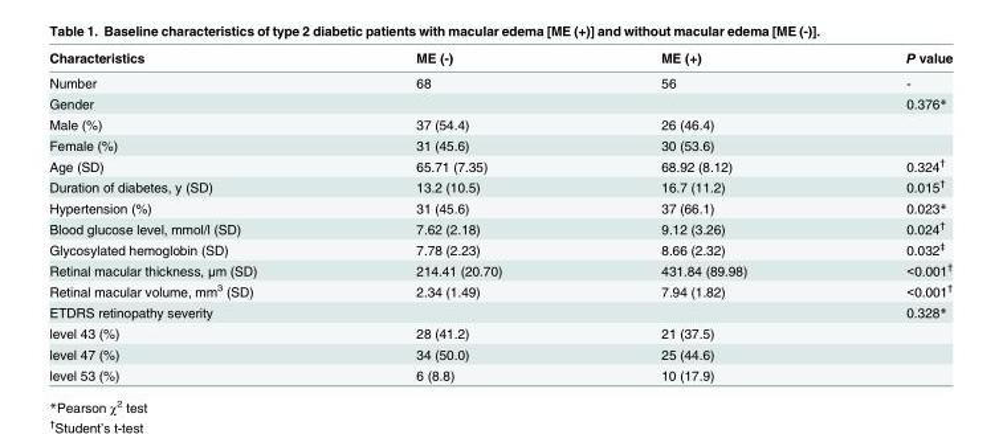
<table><thead><tr><td>Characteristics</td><td>ME (-)</td><td>ME (+)</td><td>P value</td></tr></thead><tbody><tr><td>Number</td><td>68</td><td>56</td><td>-</td></tr><tr><td>Gender</td><td></td><td></td><td>0.376*</td></tr><tr><td>Male (%)</td><td>37 (54.4)</td><td>26 (46.4)</td><td></td></tr><tr><td>Female (%)</td><td>31 (45.6)</td><td>30 (53.6)</td><td></td></tr><tr><td>Age (SD)</td><td>65.71 (7.35)</td><td>68.92 (8.12)</td><td>0.324<sup>†</sup></td></tr><tr><td>Duration of diabetes, y (SD)</td><td>13.2 (10.5)</td><td>16.7 (11.2)</td><td>0.015<sup>†</sup></td></tr><tr><td>Hypertension (%)</td><td>31 (45.6)</td><td>37 (66.1)</td><td>0.023*</td></tr><tr><td>Blood glucose level, mmol/l (SD)</td><td>7.62 (2.18)</td><td>9.12 (3.26)</td><td>0.024<sup>†</sup></td></tr><tr><td>Glycosylated hemoglobin (SD)</td><td>7.78 (2.23)</td><td>8.66 (2.32)</td><td>0.032<sup>‡</sup></td></tr><tr><td>Retinal macular thickness, μm (SD)</td><td>214.41 (20.70)</td><td>431.84 (89.98)</td><td>&lt;0.001<sup>†</sup></td></tr><tr><td>Retinal macular volume, mm<sup>3</sup> (SD)</td><td>2.34 (1.49)</td><td>7.94 (1.82)</td><td>&lt;0.001<sup>†</sup></td></tr><tr><td>ETDRS retinopathy severity</td><td></td><td></td><td>0.328*</td></tr><tr><td>level 43 (%)</td><td>28 (41.2)</td><td>21 (37.5)</td><td></td></tr><tr><td>level 47 (%)</td><td>34 (50.0)</td><td>25 (44.6)</td><td></td></tr><tr><td>level 53 (%)</td><td>6 (8.8)</td><td>10 (17.9)</td><td></td></tr></tbody></table>